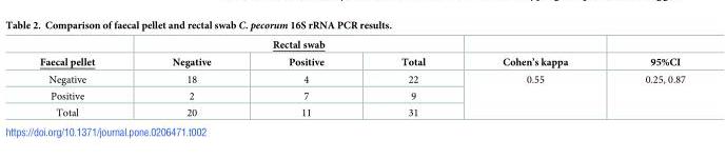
<table><thead><tr><td rowspan="2">Faecal pellet</td><td colspan="3">Rectal swab</td><td rowspan="2">Cohen’s kappa</td><td rowspan="2">95%CI</td></tr><tr><td>Negative</td><td>Positive</td><td>Total</td></tr></thead><tbody><tr><td>Negative</td><td>18</td><td>4</td><td>22</td><td rowspan="3">0.55</td><td rowspan="3">0.25, 0.87</td></tr><tr><td>Positive</td><td>2</td><td>7</td><td>9</td></tr><tr><td>Total</td><td>20</td><td>11</td><td>31</td></tr></tbody></table>